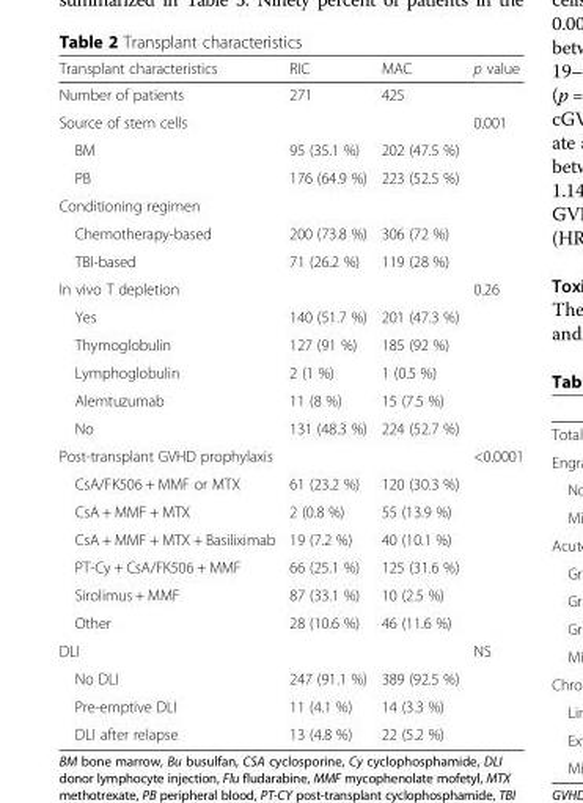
<table><thead><tr><td>Transplant characteristics</td><td>RIC</td><td>MAC</td><td>p value</td></tr></thead><tbody><tr><td>Number of patients</td><td>271</td><td>425</td><td></td></tr><tr><td colspan="3">Source of stem cells</td><td>0.001</td></tr><tr><td>BM</td><td>95 (35.1 %)</td><td>202 (47.5 %)</td><td></td></tr><tr><td>PB</td><td>176 (64.9 %)</td><td>223 (52.5 %)</td><td></td></tr><tr><td colspan="4">Conditioning regimen</td></tr><tr><td>Chemotherapy-based</td><td>200 (73.8 %)</td><td>306 (72 %)</td><td></td></tr><tr><td>TBI-based</td><td>71 (26.2 %)</td><td>119 (28 %)</td><td></td></tr><tr><td colspan="3">In vivo T depletion</td><td>0.26</td></tr><tr><td>Yes</td><td>140 (51.7 %)</td><td>201 (47.3 %)</td><td rowspan="2"></td></tr><tr><td>Thymoglobulin</td><td>127 (91 %)</td><td>185 (92 %)</td></tr><tr><td>Lymphoglobulin</td><td>2 (1 %)</td><td>1 (0.5 %)</td><td></td></tr><tr><td>Alemtuzumab</td><td>11 (8 %)</td><td>15 (7.5 %)</td><td rowspan="2"></td></tr><tr><td>No</td><td>131 (48.3 %)</td><td>224 (52.7 %)</td></tr><tr><td colspan="3">Post-transplant GVHD prophylaxis</td><td>&lt;0.0001</td></tr><tr><td>CsA/FK506 + MMF or MTX</td><td>61 (23.2 %)</td><td>120 (30.3 %)</td><td></td></tr><tr><td>CsA + MMF + MTX</td><td>2 (0.8 %)</td><td>55 (13.9 %)</td><td></td></tr><tr><td>CsA + MMF + MTX + Basiliximab</td><td>19 (7.2 %)</td><td>40 (10.1 %)</td><td></td></tr><tr><td>PT-Cy + CsA/FK506 + MMF</td><td>66 (25.1 %)</td><td>125 (31.6 %)</td><td></td></tr><tr><td>Sirolimus + MMF</td><td>87 (33.1 %)</td><td>10 (2.5 %)</td><td></td></tr><tr><td>Other</td><td>28 (10.6 %)</td><td>46 (11.6 %)</td><td></td></tr><tr><td>DLI</td><td></td><td></td><td>NS</td></tr><tr><td>No DLI</td><td>247 (91.1 %)</td><td>389 (92.5 %)</td><td></td></tr><tr><td>Pre-emptive DLI</td><td>11 (4.1 %)</td><td>14 (3.3 %)</td><td></td></tr><tr><td>DLI after relapse</td><td>13 (4.8 %)</td><td>22 (5.2 %)</td><td></td></tr></tbody></table>